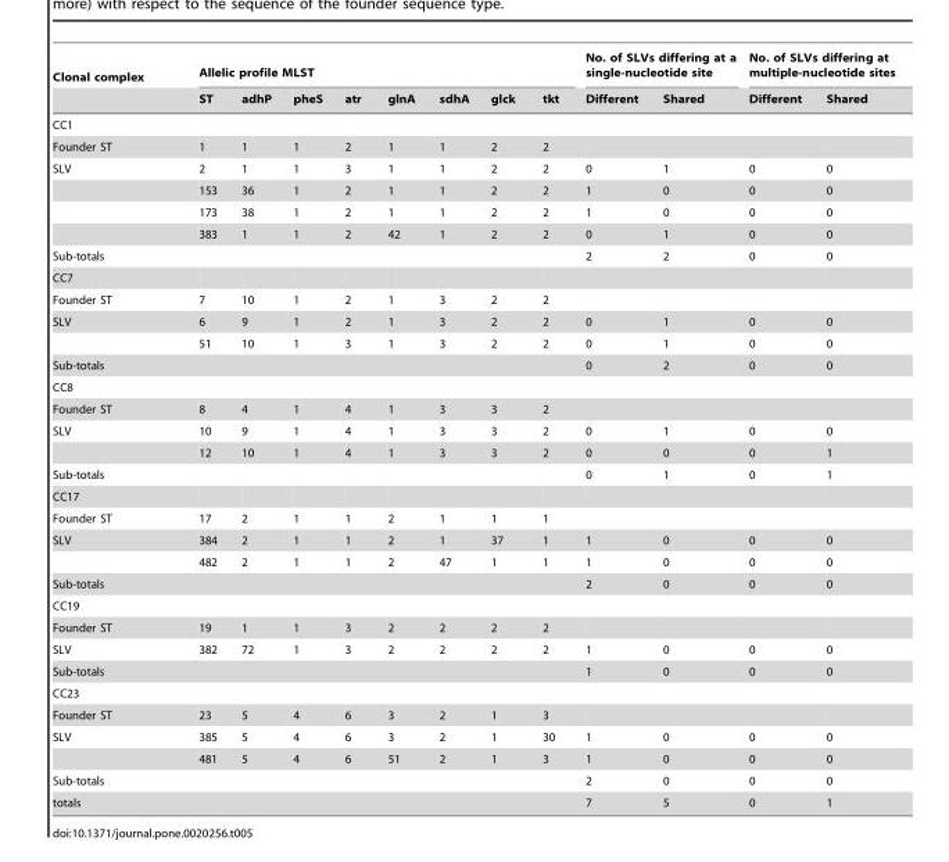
<table><thead><tr><td rowspan="2">Clonal complex</td><td colspan="8">Allelic profile MLST</td><td colspan="2">No. of SLVs differing at a single-nucleotide site</td><td colspan="2">No. of SLVs differing at multiple-nucleotide sites</td></tr><tr><td>ST</td><td>adhP</td><td>pheS</td><td>atr</td><td>glnA</td><td>sdhA</td><td>glck</td><td>tkt</td><td>Different</td><td>Shared</td><td>Different</td><td>Shared</td></tr></thead><tbody><tr><td colspan="13">CC1</td></tr><tr><td>Founder ST</td><td>1</td><td>1</td><td>1</td><td>2</td><td>1</td><td>1</td><td>2</td><td>2</td><td></td><td></td><td></td><td></td></tr><tr><td rowspan="4">SLV</td><td>2</td><td>1</td><td>1</td><td>3</td><td>1</td><td>1</td><td>2</td><td>2</td><td>0</td><td>1</td><td>0</td><td>0</td></tr><tr><td>153</td><td>36</td><td>1</td><td>2</td><td>1</td><td>1</td><td>2</td><td>2</td><td>1</td><td>0</td><td>0</td><td>0</td></tr><tr><td>173</td><td>38</td><td>1</td><td>2</td><td>1</td><td>1</td><td>2</td><td>2</td><td>1</td><td>0</td><td>0</td><td>0</td></tr><tr><td>383</td><td>1</td><td>1</td><td>2</td><td>42</td><td>1</td><td>2</td><td>2</td><td>0</td><td>1</td><td>0</td><td>0</td></tr><tr><td colspan="9">Sub-totals</td><td>2</td><td>2</td><td>0</td><td>0</td></tr><tr><td colspan="13">CC7</td></tr><tr><td>Founder ST</td><td>7</td><td>10</td><td>1</td><td>2</td><td>1</td><td>3</td><td>2</td><td>2</td><td></td><td></td><td></td><td></td></tr><tr><td rowspan="2">SLV</td><td>6</td><td>9</td><td>1</td><td>2</td><td>1</td><td>3</td><td>2</td><td>2</td><td>0</td><td>1</td><td>0</td><td>0</td></tr><tr><td>51</td><td>10</td><td>1</td><td>3</td><td>1</td><td>3</td><td>2</td><td>2</td><td>0</td><td>1</td><td>0</td><td>0</td></tr><tr><td colspan="9">Sub-totals</td><td>0</td><td>2</td><td>0</td><td>0</td></tr><tr><td colspan="13">CC8</td></tr><tr><td>Founder ST</td><td>8</td><td>4</td><td>1</td><td>4</td><td>1</td><td>3</td><td>3</td><td>2</td><td></td><td></td><td></td><td></td></tr><tr><td rowspan="2">SLV</td><td>10</td><td>9</td><td>1</td><td>4</td><td>1</td><td>3</td><td>3</td><td>2</td><td>0</td><td>1</td><td>0</td><td>0</td></tr><tr><td>12</td><td>10</td><td>1</td><td>4</td><td>1</td><td>3</td><td>3</td><td>2</td><td>0</td><td>0</td><td>0</td><td>1</td></tr><tr><td colspan="9">Sub-totals</td><td>0</td><td>1</td><td>0</td><td>1</td></tr><tr><td colspan="13">CC17</td></tr><tr><td>Founder ST</td><td>17</td><td>2</td><td>1</td><td>1</td><td>2</td><td>1</td><td>1</td><td>1</td><td></td><td></td><td></td><td></td></tr><tr><td rowspan="2">SLV</td><td>384</td><td>2</td><td>1</td><td>1</td><td>2</td><td>1</td><td>37</td><td>1</td><td>1</td><td>0</td><td>0</td><td>0</td></tr><tr><td>482</td><td>2</td><td>1</td><td>1</td><td>2</td><td>47</td><td>1</td><td>1</td><td>1</td><td>0</td><td>0</td><td>0</td></tr><tr><td colspan="9">Sub-totals</td><td>2</td><td>0</td><td>0</td><td>0</td></tr><tr><td colspan="13">CC19</td></tr><tr><td>Founder ST</td><td>19</td><td>1</td><td>1</td><td>3</td><td>2</td><td>2</td><td>2</td><td>2</td><td></td><td></td><td></td><td></td></tr><tr><td>SLV</td><td>382</td><td>72</td><td>1</td><td>3</td><td>2</td><td>2</td><td>2</td><td>2</td><td>1</td><td>0</td><td>0</td><td>0</td></tr><tr><td colspan="9">Sub-totals</td><td>1</td><td>0</td><td>0</td><td>0</td></tr><tr><td colspan="13">CC23</td></tr><tr><td>Founder ST</td><td>23</td><td>5</td><td>4</td><td>6</td><td>3</td><td>2</td><td>1</td><td>3</td><td></td><td></td><td></td><td></td></tr><tr><td rowspan="2">SLV</td><td>385</td><td>5</td><td>4</td><td>6</td><td>3</td><td>2</td><td>1</td><td>30</td><td>1</td><td>0</td><td>0</td><td>0</td></tr><tr><td>481</td><td>5</td><td>4</td><td>6</td><td>51</td><td>2</td><td>1</td><td>3</td><td>1</td><td>0</td><td>0</td><td>0</td></tr><tr><td colspan="9">Sub-totals</td><td>2</td><td>0</td><td>0</td><td>0</td></tr><tr><td colspan="9">totals</td><td>7</td><td>5</td><td>0</td><td>1</td></tr></tbody></table>